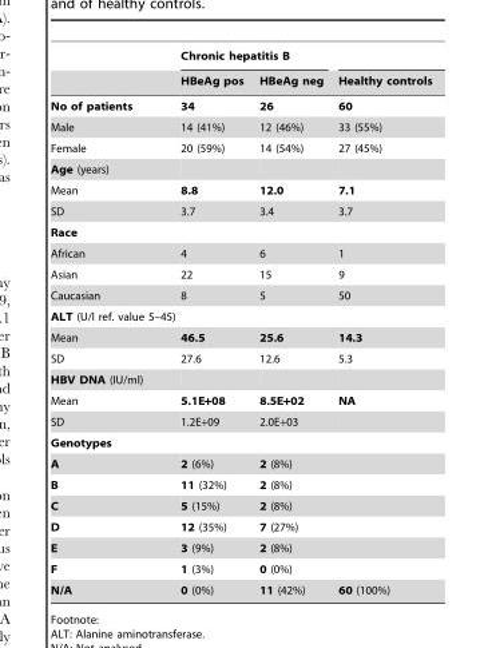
<table><thead><tr><td rowspan="2"></td><td colspan="2">Chronic hepatitis B</td><td rowspan="2">Healthy controls</td></tr><tr><td>HBeAg pos</td><td>HBeAg neg</td></tr></thead><tbody><tr><td>No of patients</td><td>34</td><td>26</td><td>60</td></tr><tr><td>Male</td><td>14 (41%)</td><td>12 (46%)</td><td>33 (55%)</td></tr><tr><td>Female</td><td>20 (59%)</td><td>14 (54%)</td><td>27 (45%)</td></tr><tr><td colspan="4">Age (years)</td></tr><tr><td>Mean</td><td>8.8</td><td>12.0</td><td>7.1</td></tr><tr><td>SD</td><td>3.7</td><td>3.4</td><td>3.7</td></tr><tr><td colspan="4">Race</td></tr><tr><td>African</td><td>4</td><td>6</td><td>1</td></tr><tr><td>Asian</td><td>22</td><td>15</td><td>9</td></tr><tr><td>Caucasian</td><td>8</td><td>5</td><td>50</td></tr><tr><td colspan="4">ALT (U/l ref. value 5–45)</td></tr><tr><td>Mean</td><td>46.5</td><td>25.6</td><td>14.3</td></tr><tr><td>SD</td><td>27.6</td><td>12.6</td><td>5.3</td></tr><tr><td colspan="4">HBV DNA (IU/ml)</td></tr><tr><td>Mean</td><td>5.1E+08</td><td>8.5E+02</td><td>NA</td></tr><tr><td>SD</td><td>1.2E+09</td><td>2.0E+03</td><td></td></tr><tr><td colspan="4">Genotypes</td></tr><tr><td>A</td><td>2 (6%)</td><td>2 (8%)</td><td></td></tr><tr><td>B</td><td>11 (32%)</td><td>2 (8%)</td><td></td></tr><tr><td>C</td><td>5 (15%)</td><td>2 (8%)</td><td></td></tr><tr><td>D</td><td>12 (35%)</td><td>7 (27%)</td><td></td></tr><tr><td>E</td><td>3 (9%)</td><td>2 (8%)</td><td></td></tr><tr><td>F</td><td>1 (3%)</td><td>0 (0%)</td><td></td></tr><tr><td>N/A</td><td>0 (0%)</td><td>11 (42%)</td><td>60 (100%)</td></tr></tbody></table>